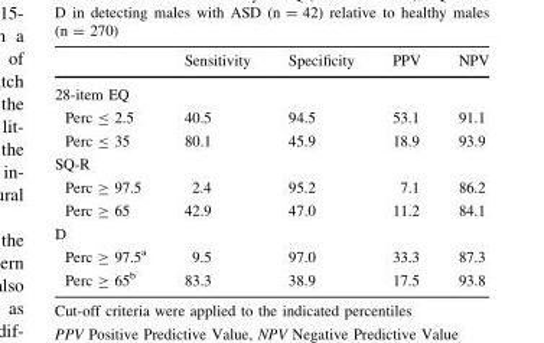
<table><thead><tr><td></td><td>Sensitivity</td><td>Specificity</td><td>PPV</td><td>NPV</td></tr></thead><tbody><tr><td colspan="5">28-item EQ</td></tr><tr><td>Perc ≤ 2.5</td><td>40.5</td><td>94.5</td><td>53.1</td><td>91.1</td></tr><tr><td>Perc ≤ 35</td><td>80.1</td><td>45.9</td><td>18.9</td><td>93.9</td></tr><tr><td colspan="5">SQ-R</td></tr><tr><td>Perc ≥ 97.5</td><td>2.4</td><td>95.2</td><td>7.1</td><td>86.2</td></tr><tr><td>Perc ≥ 65</td><td>42.9</td><td>47.0</td><td>11.2</td><td>84.1</td></tr><tr><td colspan="5">D</td></tr><tr><td>Perc ≥ 97.5<sup>a</sup></td><td>9.5</td><td>97.0</td><td>33.3</td><td>87.3</td></tr><tr><td>Perc ≥ 65<sup>b</sup></td><td>83.3</td><td>38.9</td><td>17.5</td><td>93.8</td></tr></tbody></table>